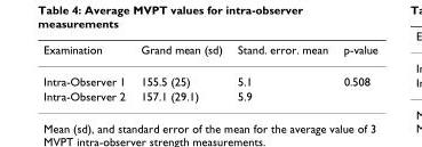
<table><thead><tr><td>Examination</td><td>Grand mean (sd)</td><td>Stand. error. mean</td><td>p-value</td></tr></thead><tbody><tr><td>Intra-Observer 1</td><td>155.5 (25)</td><td>5.1</td><td>0.508</td></tr><tr><td>Intra-Observer 2</td><td>157.1 (29.1)</td><td>5.9</td><td></td></tr></tbody></table>